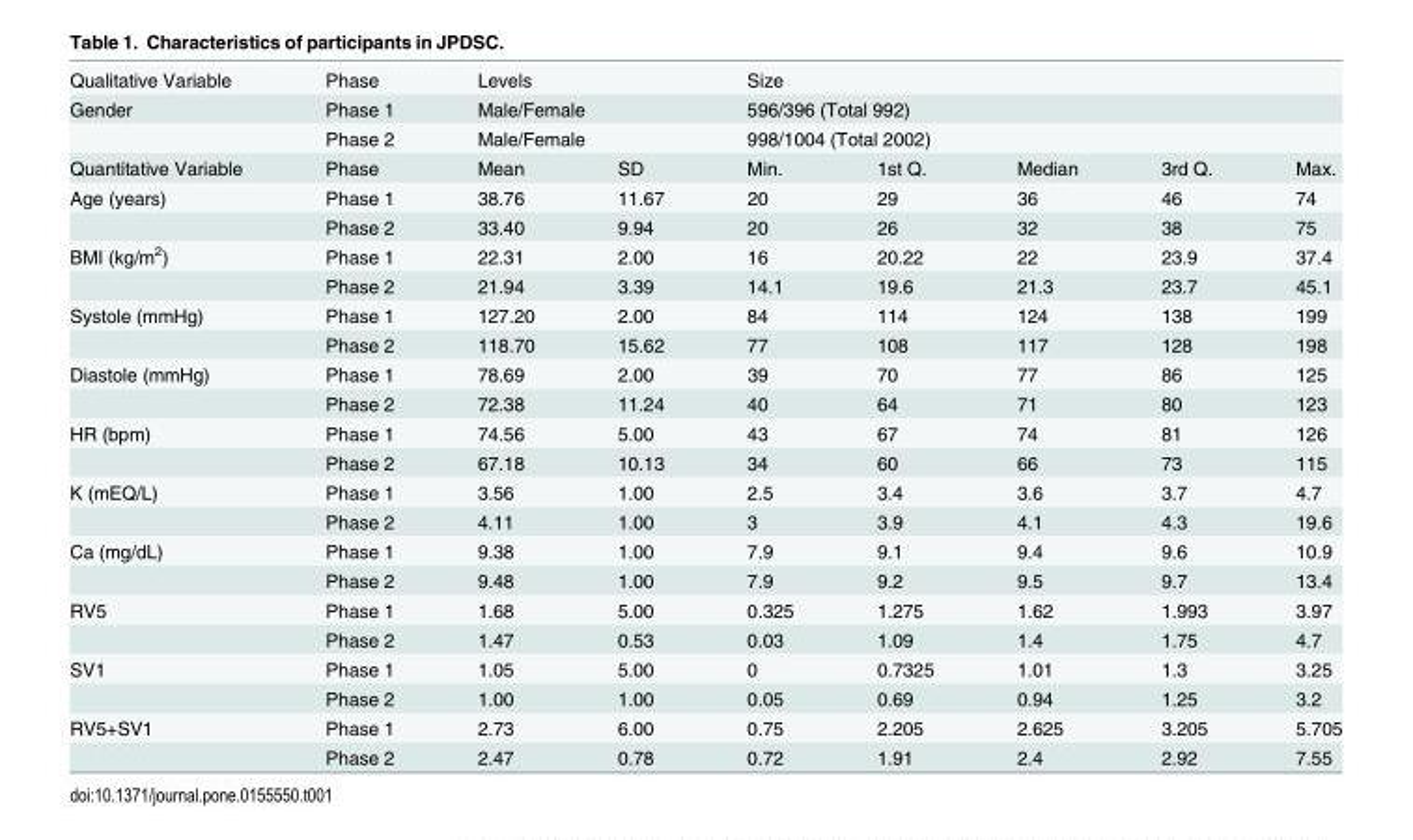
<table><tbody><tr><td>Qualitative Variable</td><td>Phase</td><td colspan="2">Levels</td><td colspan="3">Size</td><td></td><td></td></tr><tr><td rowspan="2">Gender</td><td>Phase 1</td><td colspan="2">Male/Female</td><td colspan="3">596/396 (Total 992)</td><td></td><td></td></tr><tr><td>Phase 2</td><td colspan="2">Male/Female</td><td colspan="3">998/1004 (Total 2002)</td><td></td><td></td></tr><tr><td>Quantitative Variable</td><td>Phase</td><td>Mean</td><td>SD</td><td>Min.</td><td>1st Q.</td><td>Median</td><td>3rd Q.</td><td>Max.</td></tr><tr><td rowspan="2">Age (years)</td><td>Phase 1</td><td>38.76</td><td>11.67</td><td>20</td><td>29</td><td>36</td><td>46</td><td>74</td></tr><tr><td>Phase 2</td><td>33.40</td><td>9.94</td><td>20</td><td>26</td><td>32</td><td>38</td><td>75</td></tr><tr><td rowspan="2">BMI (kg/m<sup>2</sup>)</td><td>Phase 1</td><td>22.31</td><td>2.00</td><td>16</td><td>20.22</td><td>22</td><td>23.9</td><td>37.4</td></tr><tr><td>Phase 2</td><td>21.94</td><td>3.39</td><td>14.1</td><td>19.6</td><td>21.3</td><td>23.7</td><td>45.1</td></tr><tr><td rowspan="2">Systole (mmHg)</td><td>Phase 1</td><td>127.20</td><td>2.00</td><td>84</td><td>114</td><td>124</td><td>138</td><td>199</td></tr><tr><td>Phase 2</td><td>118.70</td><td>15.62</td><td>77</td><td>108</td><td>117</td><td>128</td><td>198</td></tr><tr><td rowspan="2">Diastole (mmHg)</td><td>Phase 1</td><td>78.69</td><td>2.00</td><td>39</td><td>70</td><td>77</td><td>86</td><td>125</td></tr><tr><td>Phase 2</td><td>72.38</td><td>11.24</td><td>40</td><td>64</td><td>71</td><td>80</td><td>123</td></tr><tr><td rowspan="2">HR (bpm)</td><td>Phase 1</td><td>74.56</td><td>5.00</td><td>43</td><td>67</td><td>74</td><td>81</td><td>126</td></tr><tr><td>Phase 2</td><td>67.18</td><td>10.13</td><td>34</td><td>60</td><td>66</td><td>73</td><td>115</td></tr><tr><td rowspan="2">K (mEQ/L)</td><td>Phase 1</td><td>3.56</td><td>1.00</td><td>2.5</td><td>3.4</td><td>3.6</td><td>3.7</td><td>4.7</td></tr><tr><td>Phase 2</td><td>4.11</td><td>1.00</td><td>3</td><td>3.9</td><td>4.1</td><td>4.3</td><td>19.6</td></tr><tr><td rowspan="2">Ca (mg/dL)</td><td>Phase 1</td><td>9.38</td><td>1.00</td><td>7.9</td><td>9.1</td><td>9.4</td><td>9.6</td><td>10.9</td></tr><tr><td>Phase 2</td><td>9.48</td><td>1.00</td><td>7.9</td><td>9.2</td><td>9.5</td><td>9.7</td><td>13.4</td></tr><tr><td rowspan="2">RV5</td><td>Phase 1</td><td>1.68</td><td>5.00</td><td>0.325</td><td>1.275</td><td>1.62</td><td>1.993</td><td>3.97</td></tr><tr><td>Phase 2</td><td>1.47</td><td>0.53</td><td>0.03</td><td>1.09</td><td>1.4</td><td>1.75</td><td>4.7</td></tr><tr><td rowspan="2">SV1</td><td>Phase 1</td><td>1.05</td><td>5.00</td><td>0</td><td>0.7325</td><td>1.01</td><td>1.3</td><td>3.25</td></tr><tr><td>Phase 2</td><td>1.00</td><td>1.00</td><td>0.05</td><td>0.69</td><td>0.94</td><td>1.25</td><td>3.2</td></tr><tr><td rowspan="2">RV5+SV1</td><td>Phase 1</td><td>2.73</td><td>6.00</td><td>0.75</td><td>2.205</td><td>2.625</td><td>3.205</td><td>5.705</td></tr><tr><td>Phase 2</td><td>2.47</td><td>0.78</td><td>0.72</td><td>1.91</td><td>2.4</td><td>2.92</td><td>7.55</td></tr></tbody></table>